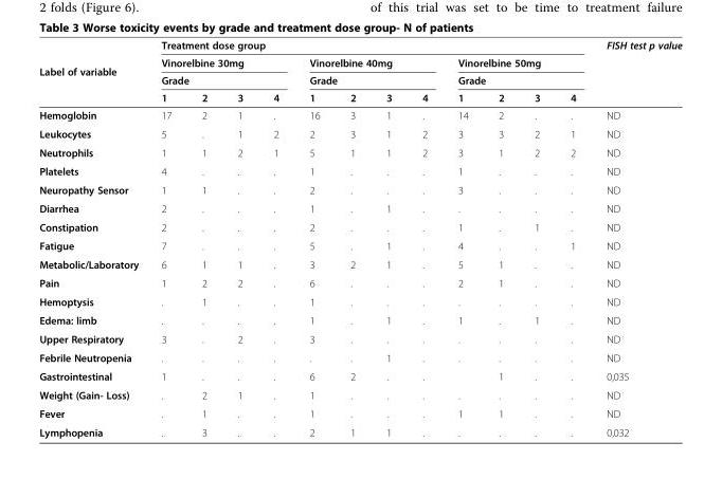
<table><thead><tr><td rowspan="4">Label of variable</td><td colspan="12">Treatment dose group</td><td rowspan="4">FISH test p value</td></tr><tr><td rowspan="2" colspan="4">Vinorelbine 30mg Grade</td><td rowspan="2" colspan="4">Vinorelbine 40mg Grade</td><td rowspan="2" colspan="4">Vinorelbine 50mg Grade</td></tr><tr></tr><tr><td>1</td><td>2</td><td>3</td><td>4</td><td>1</td><td>2</td><td>3</td><td>4</td><td>1</td><td>2</td><td>3</td><td>4</td></tr></thead><tbody><tr><td>Hemoglobin</td><td>17</td><td>2</td><td>1</td><td>.</td><td>16</td><td>3</td><td>1</td><td>.</td><td>14</td><td>2</td><td>.</td><td>.</td><td>ND</td></tr><tr><td>Leukocytes</td><td>5</td><td>.</td><td>1</td><td>2</td><td>2</td><td>3</td><td>1</td><td>2</td><td>3</td><td>3</td><td>2</td><td>1</td><td>ND</td></tr><tr><td>Neutrophils</td><td>1</td><td>1</td><td>2</td><td>1</td><td>5</td><td>1</td><td>1</td><td>2</td><td>3</td><td>1</td><td>2</td><td>2</td><td>ND</td></tr><tr><td>Platelets</td><td>4</td><td>.</td><td>.</td><td>.</td><td>1</td><td>.</td><td>.</td><td>.</td><td>1</td><td>.</td><td>.</td><td>.</td><td>ND</td></tr><tr><td>Neuropathy Sensor</td><td>1</td><td>1</td><td>.</td><td>.</td><td>2</td><td>.</td><td>.</td><td>.</td><td>3</td><td>.</td><td>.</td><td>.</td><td>ND</td></tr><tr><td>Diarrhea</td><td>2</td><td>.</td><td>.</td><td>.</td><td>1</td><td>.</td><td>1</td><td>.</td><td>.</td><td>.</td><td>.</td><td>.</td><td>ND</td></tr><tr><td>Constipation</td><td>2</td><td>.</td><td>.</td><td>.</td><td>2</td><td>.</td><td>.</td><td>.</td><td>1</td><td>.</td><td>1</td><td>.</td><td>ND</td></tr><tr><td>Fatigue</td><td>7</td><td>.</td><td>.</td><td>.</td><td>5</td><td>.</td><td>1</td><td>.</td><td>4</td><td>.</td><td>.</td><td>1</td><td>ND</td></tr><tr><td>Metabolic/Laboratory</td><td>6</td><td>1</td><td>1</td><td>.</td><td>3</td><td>2</td><td>1</td><td>.</td><td>5</td><td>1</td><td>.</td><td>.</td><td>ND</td></tr><tr><td>Pain</td><td>1</td><td>2</td><td>2</td><td>.</td><td>6</td><td>.</td><td>.</td><td>.</td><td>2</td><td>1</td><td>.</td><td>.</td><td>ND</td></tr><tr><td>Hemoptysis</td><td>.</td><td>1</td><td>.</td><td>.</td><td>1</td><td>.</td><td>.</td><td>.</td><td>.</td><td>.</td><td>.</td><td>.</td><td>ND</td></tr><tr><td>Edema: limb</td><td>.</td><td>.</td><td>.</td><td>.</td><td>1</td><td>.</td><td>1</td><td>.</td><td>1</td><td>.</td><td>1</td><td>.</td><td>ND</td></tr><tr><td>Upper Respiratory</td><td>3</td><td>.</td><td>2</td><td>.</td><td>3</td><td>.</td><td>.</td><td>.</td><td>.</td><td>.</td><td>.</td><td>.</td><td>ND</td></tr><tr><td>Febrile Neutropenia</td><td>.</td><td>.</td><td>.</td><td>.</td><td>.</td><td>.</td><td>1</td><td>.</td><td>.</td><td>.</td><td>.</td><td>.</td><td>ND</td></tr><tr><td>Gastrointestinal</td><td>1</td><td>.</td><td>.</td><td>.</td><td>6</td><td>2</td><td>.</td><td>.</td><td></td><td>1</td><td>.</td><td>.</td><td>0,035</td></tr><tr><td>Weight (Gain- Loss)</td><td>.</td><td>2</td><td>1</td><td>.</td><td>1</td><td>.</td><td>.</td><td>.</td><td>.</td><td>.</td><td>.</td><td>.</td><td>ND</td></tr><tr><td>Fever</td><td>.</td><td>1</td><td>.</td><td>.</td><td>1</td><td>.</td><td>.</td><td>.</td><td>1</td><td>1</td><td>.</td><td>.</td><td>ND</td></tr><tr><td>Lymphopenia</td><td>.</td><td>3</td><td>.</td><td>.</td><td>2</td><td>1</td><td>1</td><td>.</td><td>.</td><td>.</td><td>.</td><td>.</td><td>0,032</td></tr></tbody></table>